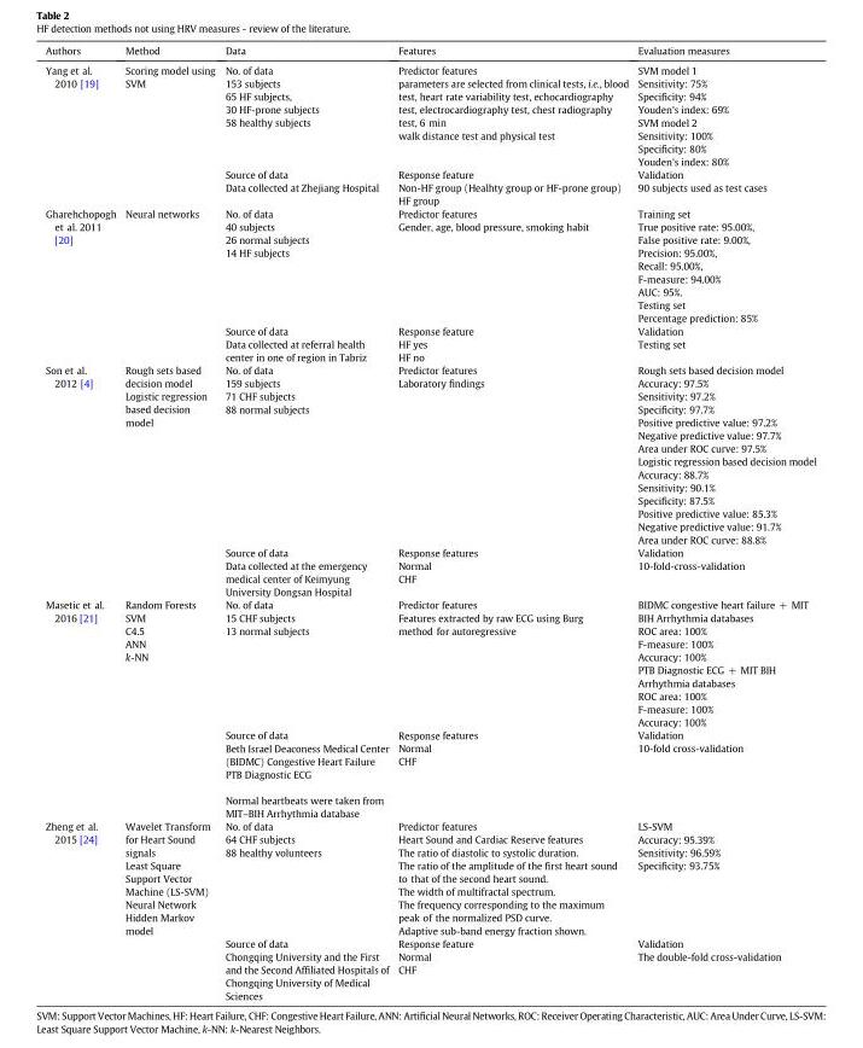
<table><thead><tr><td>Authors</td><td>Method</td><td>Data</td><td>Features</td><td>Evaluation measures</td></tr></thead><tbody><tr><td rowspan="3">Yang et al. 2010 [19]</td><td rowspan="3">Scoring model using SVM</td><td>No. of data 153 subjects 65 HF subjects, 30 HF-prone subjects 58 healthy subjects</td><td>Predictor features parameters are selected from clinical tests, i.e., blood test, heart rate variability test, echocardiography test, electrocardiography test, chest radiography test, 6 min walk distance test and physical test</td><td>SVM model 1 Sensitivity: 75% Specificity: 94% Youden&#x27;s index: 69% SVM model 2 Sensitivity: 100% Specificity: 80% Youden&#x27;s index: 80%</td></tr><tr><td rowspan="2">Source of data Data collected at Zhejiang Hospital</td><td rowspan="2">Response feature Non-HF group (Healhty group or HF-prone group) HF group</td><td>Validation</td></tr><tr><td>90 subjects used as test cases</td></tr><tr><td rowspan="3">Gharehchopogh et al. 2011 [20]</td><td rowspan="3">Neural networks</td><td>No. of data 40 subjects 26 normal subjects 14 HF subjects</td><td>Predictor features Gender, age, blood pressure, smoking habit</td><td>Training set True positive rate: 95.00%, False positive rate: 9.00%, Precision: 95.00%, Recall: 95.00%, F-measure: 94.00% AUC: 95%. Testing set Percentage prediction: 85%</td></tr><tr><td rowspan="2">Source of data Data collected at referral health center in one of region in Tabriz</td><td rowspan="2">Response feature HF yes HF no</td><td>Validation</td></tr><tr><td>Testing set</td></tr><tr><td rowspan="3">Son et al. 2012 [4]</td><td rowspan="3">Rough sets based decision model Logistic regression based decision model</td><td>No. of data 159 subjects 71 CHF subjects 88 normal subjects</td><td>Predictor features Laboratory findings</td><td>Rough sets based decision model Accuracy: 97.5% Sensitivity: 97.2% Specificity: 97.7% Positive predictive value: 97.2% Negative predictive value: 97.7% Area under ROC curve: 97.5% Logistic regression based decision model Accuracy: 88.7% Sensitivity: 90.1% Specificity: 87.5% Positive predictive value: 85.3% Negative predictive value: 91.7% Area under ROC curve: 88.8%</td></tr><tr><td rowspan="2">Source of data Data collected at the emergency medical center of Keimyung University Dongsan Hospital</td><td rowspan="2">Response features Normal CHF</td><td>Validation</td></tr><tr><td>10-fold-cross-validation</td></tr><tr><td rowspan="3">Masetic et al. 2016 [21]</td><td rowspan="3">Random Forests SVM C4.5 ANN k-NN</td><td>No. of data 15 CHF subjects 13 normal subjects</td><td>Predictor features Features extracted by raw ECG using Burg method for autoregressive</td><td>BIDMC congestive heart failure + MIT BIH Arrhythmia databases ROC area: 100% F-measure: 100% Accuracy: 100% PTB Diagnostic ECG + MIT BIH Arrhythmia databases ROC area: 100% F-measure: 100% Accuracy: 100%</td></tr><tr><td rowspan="2">Source of data Beth Israel Deaconess Medical Center (BIDMC) Congestive Heart Failure PTB Diagnostic ECG Normal heartbeats were taken from MIT–BIH Arrhythmia database</td><td rowspan="2">Response features Normal CHF</td><td>Validation</td></tr><tr><td>10-fold cross-validation</td></tr><tr><td rowspan="3">Zheng et al. 2015 [24]</td><td rowspan="3">Wavelet Transform for Heart Sound signals Least Square Support Vector Machine (LS-SVM) Neural Network Hidden Markov model</td><td>No. of data 64 CHF subjects 88 healthy volunteers</td><td>Predictor features Heart Sound and Cardiac Reserve features The ratio of diastolic to systolic duration. The ratio of the amplitude of the first heart sound to that of the second heart sound. The width of multifractal spectrum. The frequency corresponding to the maximum peak of the normalized PSD curve. Adaptive sub-band energy fraction shown.</td><td>LS-SVM Accuracy: 95.39% Sensitivity: 96.59% Specificity: 93.75%</td></tr><tr><td rowspan="2">Source of data Chongqing University and the First and the Second Affiliated Hospitals of Chongqing University of Medical Sciences</td><td rowspan="2">Response feature Normal CHF</td><td>Validation</td></tr><tr><td>The double-fold cross-validation</td></tr></tbody></table>